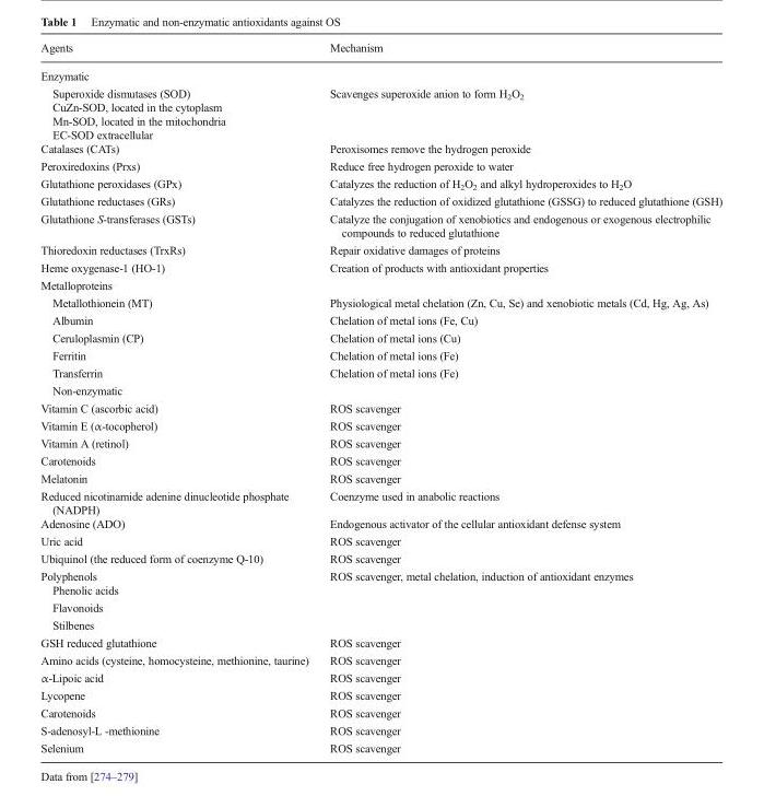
<table><thead><tr><td>Agents</td><td>Mechanism</td></tr></thead><tbody><tr><td colspan="2">Enzymatic</td></tr><tr><td>Superoxide dismutases (SOD) CuZn-SOD, located in the cytoplasm Mn-SOD, located in the mitochondria EC-SOD extracellular</td><td>Scavenges superoxide anion to form H<sub>2</sub>O<sub>2</sub></td></tr><tr><td>Catalases (CATs)</td><td>Peroxisomes remove the hydrogen peroxide</td></tr><tr><td>Peroxiredoxins (Prxs)</td><td>Reduce free hydrogen peroxide to water</td></tr><tr><td>Glutathione peroxidases (GPx)</td><td>Catalyzes the reduction of H<sub>2</sub>O<sub>2</sub> and alkyl hydroperoxides to H<sub>2</sub>O</td></tr><tr><td>Glutathione reductases (GRs)</td><td>Catalyzes the reduction of oxidized glutathione (GSSG) to reduced glutathione (GSH)</td></tr><tr><td>Glutathione S-transferases (GSTs)</td><td>Catalyze the conjugation of xenobiotics and endogenous or exogenous electrophilic compounds to reduced glutathione</td></tr><tr><td>Thioredoxin reductases (TrxRs)</td><td>Repair oxidative damages of proteins</td></tr><tr><td>Heme oxygenase-1 (HO-1)</td><td>Creation of products with antioxidant properties</td></tr><tr><td colspan="2">Metalloproteins</td></tr><tr><td>Metallothionein (MT)</td><td>Physiological metal chelation (Zn, Cu, Se) and xenobiotic metals (Cd, Hg, Ag, As)</td></tr><tr><td>Albumin</td><td>Chelation of metal ions (Fe, Cu)</td></tr><tr><td>Ceruloplasmin (CP)</td><td>Chelation of metal ions (Cu)</td></tr><tr><td>Ferritin</td><td>Chelation of metal ions (Fe)</td></tr><tr><td>Transferrin</td><td>Chelation of metal ions (Fe)</td></tr><tr><td colspan="2">Non-enzymatic</td></tr><tr><td>Vitamin C (ascorbic acid)</td><td>ROS scavenger</td></tr><tr><td>Vitamin E (α-tocopherol)</td><td>ROS scavenger</td></tr><tr><td>Vitamin A (retinol)</td><td>ROS scavenger</td></tr><tr><td>Carotenoids</td><td>ROS scavenger</td></tr><tr><td>Melatonin</td><td>ROS scavenger</td></tr><tr><td>Reduced nicotinamide adenine dinucleotide phosphate (NADPH)</td><td>Coenzyme used in anabolic reactions</td></tr><tr><td>Adenosine (ADO)</td><td>Endogenous activator of the cellular antioxidant defense system</td></tr><tr><td>Uric acid</td><td>ROS scavenger</td></tr><tr><td>Ubiquinol (the reduced form of coenzyme Q-10)</td><td>ROS scavenger</td></tr><tr><td>Polyphenols</td><td rowspan="4">ROS scavenger, metal chelation, induction of antioxidant enzymes</td></tr><tr><td>Phenolic acids</td></tr><tr><td>Flavonoids</td></tr><tr><td>Stilbenes</td></tr><tr><td>GSH reduced glutathione</td><td>ROS scavenger</td></tr><tr><td>Amino acids (cysteine, homocysteine, methionine, taurine)</td><td>ROS scavenger</td></tr><tr><td>α-Lipoic acid</td><td>ROS scavenger</td></tr><tr><td>Lycopene</td><td>ROS scavenger</td></tr><tr><td>Carotenoids</td><td>ROS scavenger</td></tr><tr><td>S-adenosyl-L -methionine</td><td>ROS scavenger</td></tr><tr><td>Selenium</td><td>ROS scavenger</td></tr></tbody></table>